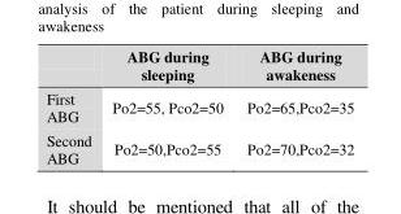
<table><thead><tr><td></td><td>ABG during sleeping</td><td>ABG during awakeness</td></tr></thead><tbody><tr><td>First ABG</td><td>Po2=55, Pco2=50</td><td>Po2=65,Pco2=35</td></tr><tr><td>Second ABG</td><td>Po2=50,Pco2=55</td><td>Po2=70,Pco2=32</td></tr></tbody></table>